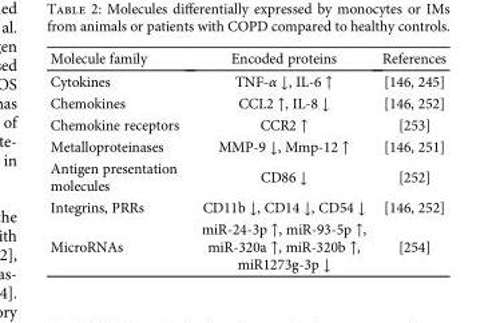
<table><thead><tr><td>Molecule family</td><td>Encoded proteins</td><td>References</td></tr></thead><tbody><tr><td>Cytokines</td><td>TNF-α ↓, IL-6 ↑</td><td>[146, 245]</td></tr><tr><td>Chemokines</td><td>CCL2 ↑, IL-8 ↓</td><td>[146, 252]</td></tr><tr><td>Chemokine receptors</td><td>CCR2 ↑</td><td>[253]</td></tr><tr><td>Metalloproteinases</td><td>MMP-9 ↓, Mmp-12 ↑</td><td>[146, 251]</td></tr><tr><td>Antigen presentation molecules</td><td>CD86 ↓</td><td>[252]</td></tr><tr><td>Integrins, PRRs</td><td>CD11b ↓, CD14 ↓, CD54 ↓</td><td>[146, 252]</td></tr><tr><td>MicroRNAs</td><td>miR-24-3p ↑, miR-93-5p ↑, miR-320a ↑, miR-320b ↑, miR1273g-3p ↓</td><td>[254]</td></tr></tbody></table>